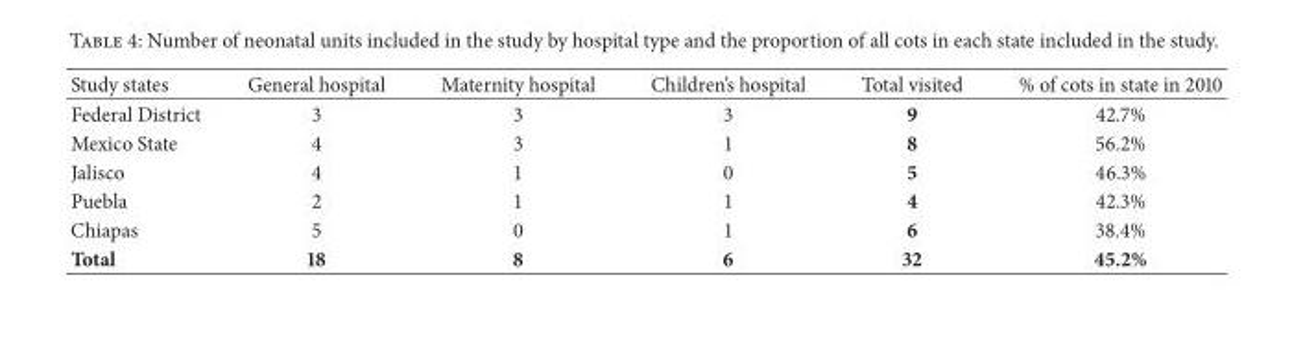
<table><thead><tr><td>Study states</td><td>General hospital</td><td>Maternity hospital</td><td>Children’s hospital</td><td>Total visited</td><td>% of cots in state in 2010</td></tr></thead><tbody><tr><td>Federal District</td><td>3</td><td>3</td><td>3</td><td>9</td><td>42.7%</td></tr><tr><td>Mexico State</td><td>4</td><td>3</td><td>1</td><td>8</td><td>56.2%</td></tr><tr><td>Jalisco</td><td>4</td><td>1</td><td>0</td><td>5</td><td>46.3%</td></tr><tr><td>Puebla</td><td>2</td><td>1</td><td>1</td><td>4</td><td>42.3%</td></tr><tr><td>Chiapas</td><td>5</td><td>0</td><td>1</td><td>6</td><td>38.4%</td></tr><tr><td>Total</td><td>18</td><td>8</td><td>6</td><td>32</td><td>45.2%</td></tr></tbody></table>